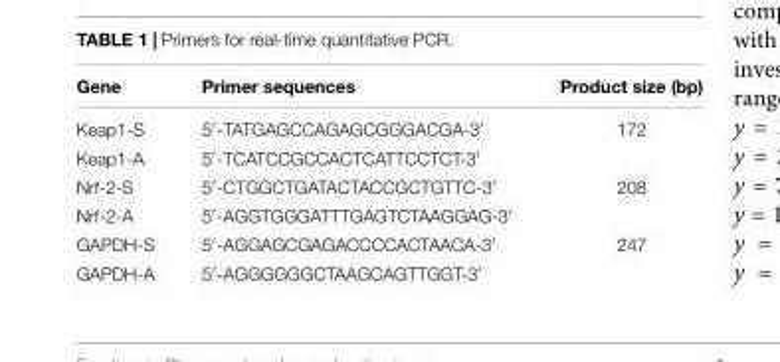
<table><thead><tr><td>Gene</td><td>Primer sequences</td><td>Product size (bp)</td></tr></thead><tbody><tr><td>Keap1-S</td><td>5′-TATGAGCCAGAGCGGGACGA-3′</td><td>172</td></tr><tr><td>Keap1-A</td><td>5′-TCATCCGCCACTCATTCCTCT-3′</td><td></td></tr><tr><td>Nrf-2-S</td><td>5′-CTGGCTGATACTACCGCTGTTC-3′</td><td>208</td></tr><tr><td>Nrf-2-A</td><td>5′-AGGTGGGATTTGAGTCTAAGGAG-3′</td><td></td></tr><tr><td>GAPDH-S</td><td>5′-AGGAGCGAGACCCCACTAACA-3′</td><td>247</td></tr><tr><td>GAPDH-A</td><td>5′-AGGGGGGCTAAGCAGTTGGT-3′</td><td></td></tr></tbody></table>